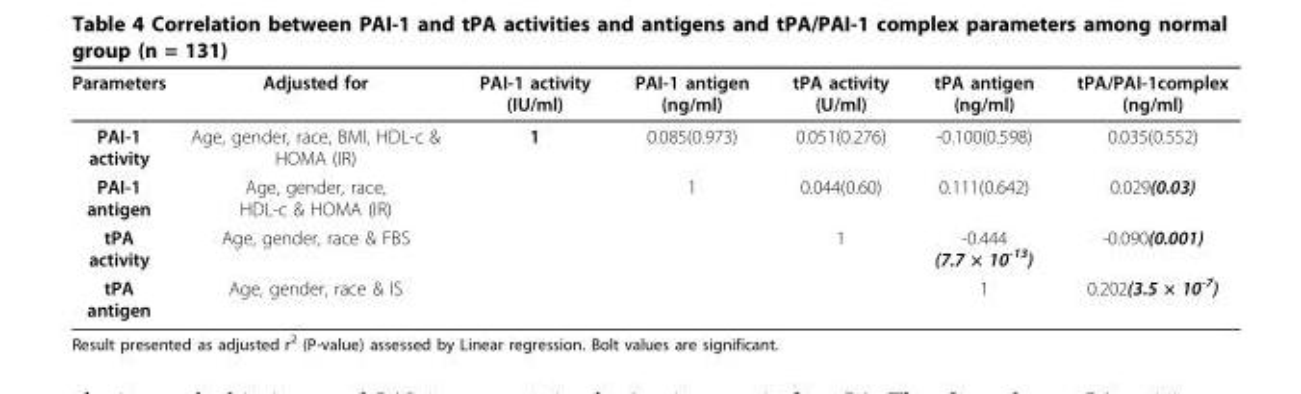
<table><thead><tr><td>Parameters</td><td>Adjusted for</td><td>PAI-1 activity (IU/ml)</td><td>PAI-1 antigen (ng/ml)</td><td>tPA activity (U/ml)</td><td>tPA antigen (ng/ml)</td><td>tPA/PAI-1complex (ng/ml)</td></tr></thead><tbody><tr><td>PAI-1 activity</td><td>Age, gender, race, BMI, HDL-c &amp; HOMA (IR)</td><td>1</td><td>0.085(0.973)</td><td>0.051(0.276)</td><td>-0.100(0.598)</td><td>0.035(0.552)</td></tr><tr><td>PAI-1 antigen</td><td>Age, gender, race, HDL-c &amp; HOMA (IR)</td><td></td><td>1</td><td>0.044(0.60)</td><td>0.111(0.642)</td><td>0.029(0.03)</td></tr><tr><td>tPA activity</td><td>Age, gender, race &amp; FBS</td><td></td><td></td><td>1</td><td>-0.444 (7.7 × 10<sup>-13</sup>)</td><td>-0.090(0.001)</td></tr><tr><td>tPA antigen</td><td>Age, gender, race &amp; IS</td><td></td><td></td><td></td><td>1</td><td>0.202(3.5 × 10<sup>-7</sup>)</td></tr></tbody></table>